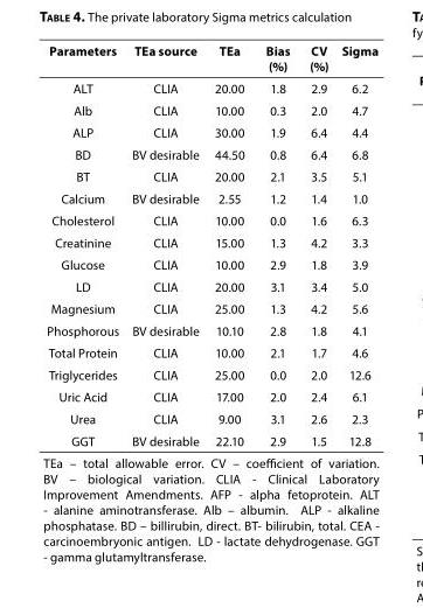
<table><thead><tr><td>Parameters</td><td>TEa source</td><td>TEa</td><td>Bias (%)</td><td>CV (%)</td><td>Sigma</td></tr></thead><tbody><tr><td>ALT</td><td>CLIA</td><td>20.00</td><td>1.8</td><td>2.9</td><td>6.2</td></tr><tr><td>Alb</td><td>CLIA</td><td>10.00</td><td>0.3</td><td>2.0</td><td>4.7</td></tr><tr><td>ALP</td><td>CLIA</td><td>30.00</td><td>1.9</td><td>6.4</td><td>4.4</td></tr><tr><td>BD</td><td>BV desirable</td><td>44.50</td><td>0.8</td><td>6.4</td><td>6.8</td></tr><tr><td>BT</td><td>CLIA</td><td>20.00</td><td>2.1</td><td>3.5</td><td>5.1</td></tr><tr><td>Calcium</td><td>BV desirable</td><td>2.55</td><td>1.2</td><td>1.4</td><td>1.0</td></tr><tr><td>Cholesterol</td><td>CLIA</td><td>10.00</td><td>0.0</td><td>1.6</td><td>6.3</td></tr><tr><td>Creatinine</td><td>CLIA</td><td>15.00</td><td>1.3</td><td>4.2</td><td>3.3</td></tr><tr><td>Glucose</td><td>CLIA</td><td>10.00</td><td>2.9</td><td>1.8</td><td>3.9</td></tr><tr><td>LD</td><td>CLIA</td><td>20.00</td><td>3.1</td><td>3.4</td><td>5.0</td></tr><tr><td>Magnesium</td><td>CLIA</td><td>25.00</td><td>1.3</td><td>4.2</td><td>5.6</td></tr><tr><td>Phosphorous</td><td>BV desirable</td><td>10.10</td><td>2.8</td><td>1.8</td><td>4.1</td></tr><tr><td>Total Protein</td><td>CLIA</td><td>10.00</td><td>2.1</td><td>1.7</td><td>4.6</td></tr><tr><td>Triglycerides</td><td>CLIA</td><td>25.00</td><td>0.0</td><td>2.0</td><td>12.6</td></tr><tr><td>Uric Acid</td><td>CLIA</td><td>17.00</td><td>2.0</td><td>2.4</td><td>6.1</td></tr><tr><td>Urea</td><td>CLIA</td><td>9.00</td><td>3.1</td><td>2.6</td><td>2.3</td></tr><tr><td>GGT</td><td>BV desirable</td><td>22.10</td><td>2.9</td><td>1.5</td><td>12.8</td></tr><tr><td colspan="6">TEa – total allowable error. CV – coefficient of variation. BV – biological variation. CLIA - Clinical Laboratory Improvement Amendments. AFP - alpha fetoprotein. ALT - alanine aminotransferase. Alb – albumin. ALP - alkaline phosphatase. BD – billirubin, direct. BT- bilirubin, total. CEA - carcinoembryonic antigen. LD - lactate dehydrogenase. GGT - gamma glutamyltransferase.</td></tr></tbody></table>